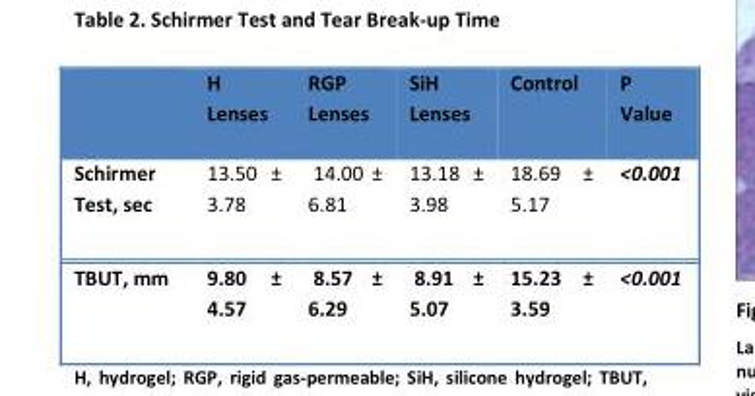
<table><thead><tr><td></td><td>H Lenses</td><td>RGP Lenses</td><td>SiH Lenses</td><td>Control</td><td>P Value</td></tr></thead><tbody><tr><td>Schirmer Test, sec</td><td>13.50 ± 3.78</td><td>14.00 ± 6.81</td><td>13.18 ± 3.98</td><td>18.69 ± 5.17</td><td>&lt;0.001</td></tr><tr><td>TBUT, mm</td><td>9.80 ± 4.57</td><td>8.57 ± 6.29</td><td>8.91 ± 5.07</td><td>15.23 ± 3.59</td><td>&lt;0.001</td></tr></tbody></table>